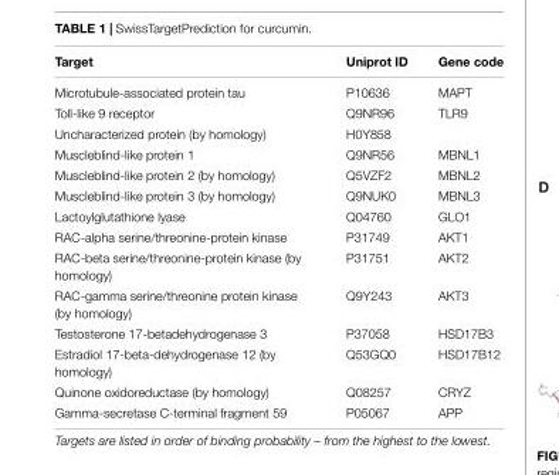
<table><thead><tr><td>Target</td><td>Uniprot ID</td><td>Gene code</td></tr></thead><tbody><tr><td>Microtubule-associated protein tau</td><td>P10636</td><td>MAPT</td></tr><tr><td>Toll-like 9 receptor</td><td>Q9NR96</td><td>TLR9</td></tr><tr><td>Uncharacterized protein (by homology)</td><td>H0Y858</td><td></td></tr><tr><td>Muscleblind-like protein 1</td><td>Q9NR56</td><td>MBNL1</td></tr><tr><td>Muscleblind-like protein 2 (by homology)</td><td>Q5VZF2</td><td>MBNL2</td></tr><tr><td>Muscleblind-like protein 3 (by homology)</td><td>Q9NUK0</td><td>MBNL3</td></tr><tr><td>Lactoylglutathione lyase</td><td>Q04760</td><td>GLO1</td></tr><tr><td>RAC-alpha serine/threonine-protein kinase</td><td>P31749</td><td>AKT1</td></tr><tr><td>RAC-beta serine/threonine-protein kinase (by homology)</td><td>P31751</td><td>AKT2</td></tr><tr><td>RAC-gamma serine/threonine protein kinase (by homology)</td><td>Q9Y243</td><td>AKT3</td></tr><tr><td>Testosterone 17-betadehydrogenase 3</td><td>P37058</td><td>HSD17B3</td></tr><tr><td>Estradiol 17-beta-dehydrogenase 12 (by homology)</td><td>Q53GQ0</td><td>HSD17B12</td></tr><tr><td>Quinone oxidoreductase (by homology)</td><td>Q08257</td><td>CRYZ</td></tr><tr><td>Gamma-secretase C-terminal fragment 59</td><td>P05067</td><td>APP</td></tr></tbody></table>